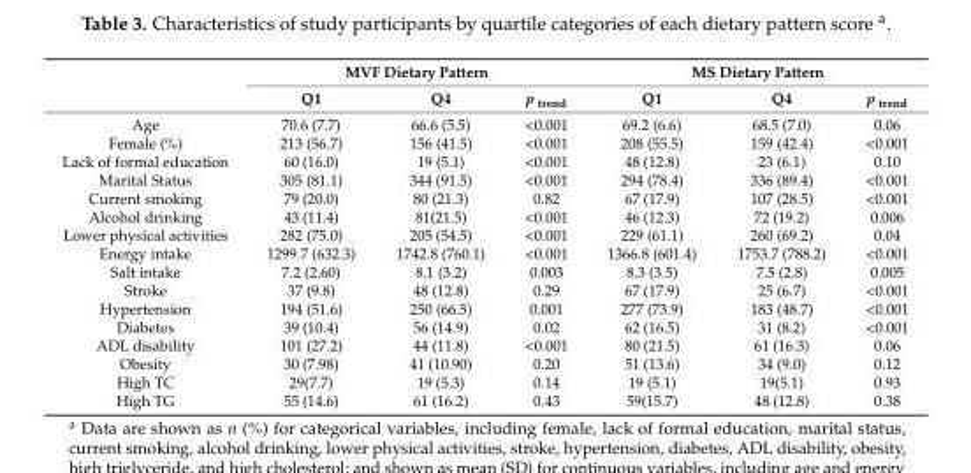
<table><thead><tr><td rowspan="2"></td><td colspan="3">MVF Dietary Pattern</td><td colspan="3">MS Dietary Pattern</td></tr><tr><td>Q1</td><td>Q4</td><td>p <sub>trend</sub></td><td>Q1</td><td>Q4</td><td>p <sub>trend</sub></td></tr></thead><tbody><tr><td>Age</td><td>70.6 (7.7)</td><td>66.6 (5.5)</td><td>&lt;0.001</td><td>69.2 (6.6)</td><td>68.5 (7.0)</td><td>0.06</td></tr><tr><td>Female (%)</td><td>213 (56.7)</td><td>156 (41.5)</td><td>&lt;0.001</td><td>208 (55.5)</td><td>159 (42.4)</td><td>&lt;0.001</td></tr><tr><td>Lack of formal education</td><td>60 (16.0)</td><td>19 (5.1)</td><td>&lt;0.001</td><td>48 (12.8)</td><td>23 (6.1)</td><td>0.10</td></tr><tr><td>Marital Status</td><td>305 (81.1)</td><td>344 (91.5)</td><td>&lt;0.001</td><td>294 (78.4)</td><td>336 (89.4)</td><td>&lt;0.001</td></tr><tr><td>Current smoking</td><td>79 (20.0)</td><td>80 (21.3)</td><td>0.82</td><td>67 (17.9)</td><td>107 (28.5)</td><td>&lt;0.001</td></tr><tr><td>Alcohol drinking</td><td>43 (11.4)</td><td>81(21.5)</td><td>&lt;0.001</td><td>46 (12.3)</td><td>72 (19.2)</td><td>0.006</td></tr><tr><td>Lower physical activities</td><td>282 (75.0)</td><td>205 (54.5)</td><td>&lt;0.001</td><td>229 (61.1)</td><td>260 (69.2)</td><td>0.04</td></tr><tr><td>Energy intake</td><td>1299.7 (632.3)</td><td>1742.8 (760.1)</td><td>&lt;0.001</td><td>1366.8 (601.4)</td><td>1753.7 (788.2)</td><td>&lt;0.001</td></tr><tr><td>Salt intake</td><td>7.2 (2.60)</td><td>8.1 (3.2)</td><td>0.003</td><td>8.3 (3.5)</td><td>7.5 (2.8)</td><td>0.005</td></tr><tr><td>Stroke</td><td>37 (9.8)</td><td>48 (12.8)</td><td>0.29</td><td>67 (17.9)</td><td>25 (6.7)</td><td>&lt;0.001</td></tr><tr><td>Hypertension</td><td>194 (51.6)</td><td>250 (66.5)</td><td>0.001</td><td>277 (73.9)</td><td>183 (48.7)</td><td>&lt;0.001</td></tr><tr><td>Diabetes</td><td>39 (10.4)</td><td>56 (14.9)</td><td>0.02</td><td>62 (16.5)</td><td>31 (8.2)</td><td>&lt;0.001</td></tr><tr><td>ADL disability</td><td>101 (27.2)</td><td>44 (11.8)</td><td>&lt;0.001</td><td>80 (21.5)</td><td>61 (16.3)</td><td>0.06</td></tr><tr><td>Obesity</td><td>30 (7.98)</td><td>41 (10.90)</td><td>0.20</td><td>51 (13.6)</td><td>34 (9.0)</td><td>0.12</td></tr><tr><td>High TC</td><td>29(7.7)</td><td>19 (5.3)</td><td>0.14</td><td>19 (5.1)</td><td>19(5.1)</td><td>0.93</td></tr><tr><td>High TG</td><td>55 (14.6)</td><td>61 (16.2)</td><td>0.43</td><td>59(15.7)</td><td>48 (12.8)</td><td>0.38</td></tr></tbody></table>